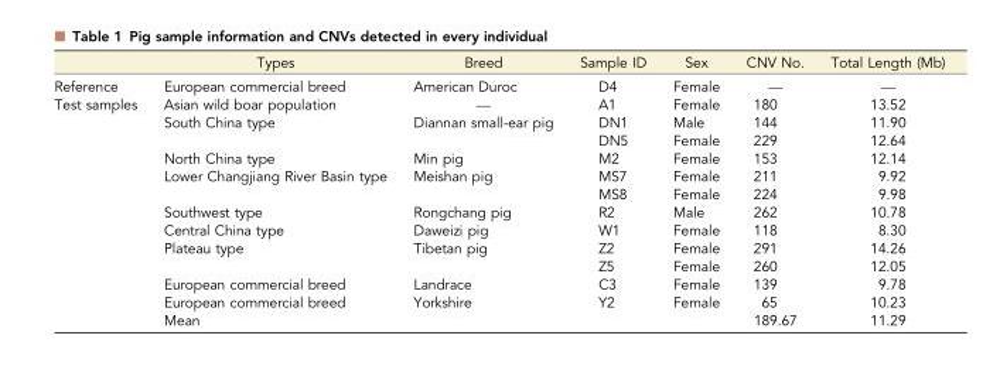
<table><thead><tr><td></td><td>Types</td><td>Breed</td><td>Sample ID</td><td>Sex</td><td>CNV No.</td><td>Total Length (Mb)</td></tr></thead><tbody><tr><td>Reference</td><td>European commercial breed</td><td>American Duroc</td><td>D4</td><td>Female</td><td>—</td><td>—</td></tr><tr><td rowspan="13">Test samples</td><td>Asian wild boar population</td><td>—</td><td>A1</td><td>Female</td><td>180</td><td>13.52</td></tr><tr><td>South China type</td><td>Diannan small-ear pig</td><td>DN1</td><td>Male</td><td>144</td><td>11.90</td></tr><tr><td></td><td></td><td>DN5</td><td>Female</td><td>229</td><td>12.64</td></tr><tr><td>North China type</td><td>Min pig</td><td>M2</td><td>Female</td><td>153</td><td>12.14</td></tr><tr><td>Lower Changjiang River Basin type</td><td>Meishan pig</td><td>MS7</td><td>Female</td><td>211</td><td>9.92</td></tr><tr><td></td><td></td><td>MS8</td><td>Female</td><td>224</td><td>9.98</td></tr><tr><td>Southwest type</td><td>Rongchang pig</td><td>R2</td><td>Male</td><td>262</td><td>10.78</td></tr><tr><td>Central China type</td><td>Daweizi pig</td><td>W1</td><td>Female</td><td>118</td><td>8.30</td></tr><tr><td>Plateau type</td><td>Tibetan pig</td><td>Z2</td><td>Female</td><td>291</td><td>14.26</td></tr><tr><td></td><td></td><td>Z5</td><td>Female</td><td>260</td><td>12.05</td></tr><tr><td>European commercial breed</td><td>Landrace</td><td>C3</td><td>Female</td><td>139</td><td>9.78</td></tr><tr><td>European commercial breed</td><td>Yorkshire</td><td>Y2</td><td>Female</td><td>65</td><td>10.23</td></tr><tr><td>Mean</td><td></td><td></td><td></td><td>189.67</td><td>11.29</td></tr></tbody></table>